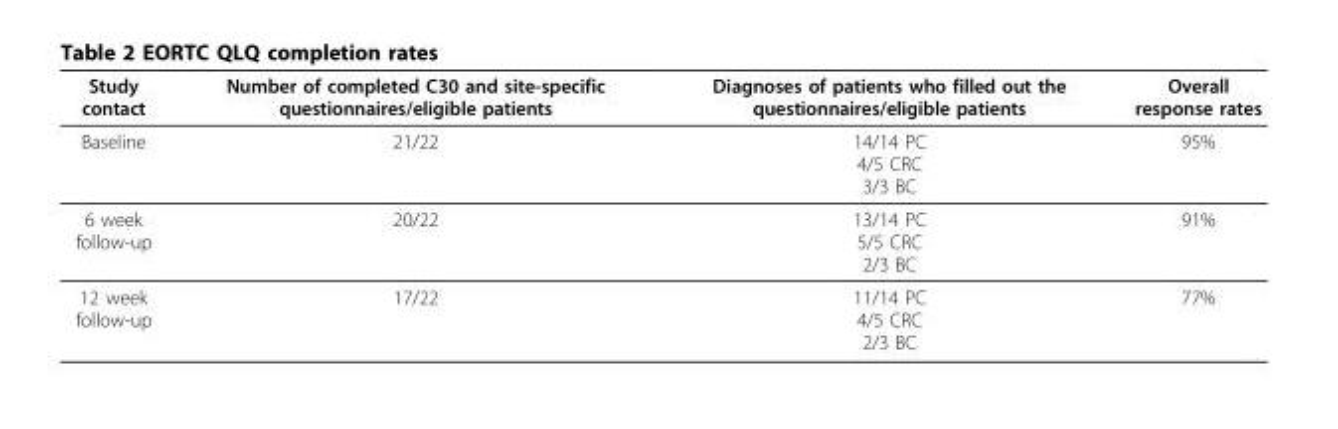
<table><thead><tr><td>Study contact</td><td>Number of completed C30 and site-specific questionnaires/eligible patients</td><td>Diagnoses of patients who filled out the questionnaires/eligible patients</td><td>Overall response rates</td></tr></thead><tbody><tr><td>Baseline</td><td>21/22</td><td>14/14 PC 4/5 CRC 3/3 BC</td><td>95%</td></tr><tr><td>6 week follow-up</td><td>20/22</td><td>13/14 PC 5/5 CRC 2/3 BC</td><td>91%</td></tr><tr><td>12 week follow-up</td><td>17/22</td><td>11/14 PC 4/5 CRC 2/3 BC</td><td>77%</td></tr></tbody></table>